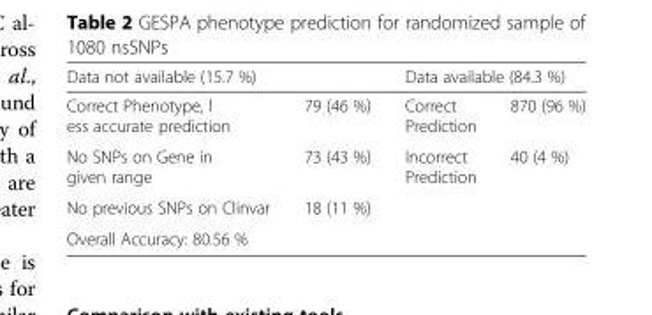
<table><thead><tr><td colspan="2">Data not available (15.7 %)</td><td colspan="2">Data available (84.3 %)</td></tr><tr><td>Correct Phenotype, l ess accurate prediction</td><td>79 (46 %)</td><td>Correct Prediction</td><td>870 (96 %)</td></tr></thead><tbody><tr><td>No SNPs on Gene in given range</td><td>73 (43 %)</td><td>Incorrect Prediction</td><td>40 (4 %)</td></tr><tr><td>No previous SNPs on Clinvar</td><td>18 (11 %)</td><td></td><td></td></tr><tr><td>Overall Accuracy: 80.56 %</td><td></td><td></td><td></td></tr></tbody></table>